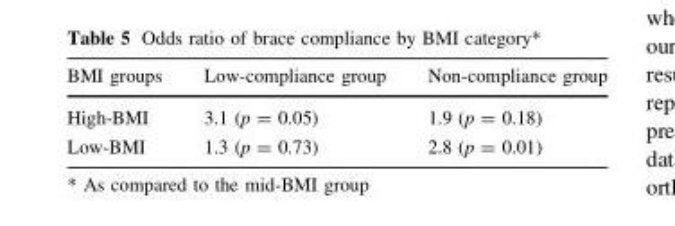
<table><thead><tr><td>BMI groups</td><td>Low-compliance group</td><td>Non-compliance group</td></tr></thead><tbody><tr><td>High-BMI</td><td>3.1 (p = 0.05)</td><td>1.9 (p = 0.18)</td></tr><tr><td>Low-BMI</td><td>1.3 (p = 0.73)</td><td>2.8 (p = 0.01)</td></tr></tbody></table>